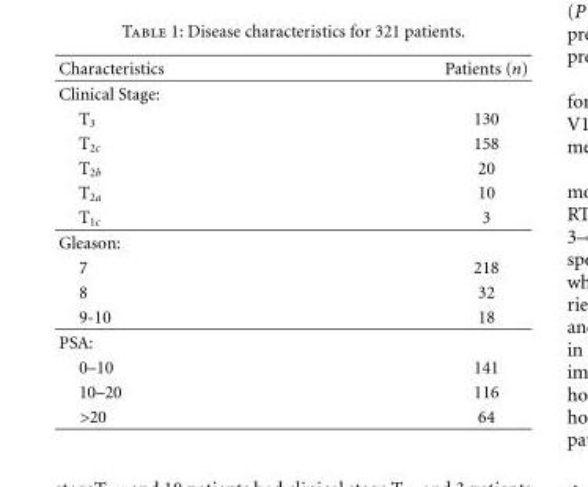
<table><thead><tr><td>Characteristics</td><td>Patients (n)</td></tr></thead><tbody><tr><td colspan="2">Clinical Stage:</td></tr><tr><td>T<sub>3</sub></td><td>130</td></tr><tr><td>T<sub>2c</sub></td><td>158</td></tr><tr><td>T<sub>2b</sub></td><td>20</td></tr><tr><td>T<sub>2a</sub></td><td>10</td></tr><tr><td>T<sub>1c</sub></td><td>3</td></tr><tr><td colspan="2">Gleason:</td></tr><tr><td>7</td><td>218</td></tr><tr><td>8</td><td>32</td></tr><tr><td>9-10</td><td>18</td></tr><tr><td colspan="2">PSA:</td></tr><tr><td>0–10</td><td>141</td></tr><tr><td>10–20</td><td>116</td></tr><tr><td>&gt;20</td><td>64</td></tr></tbody></table>